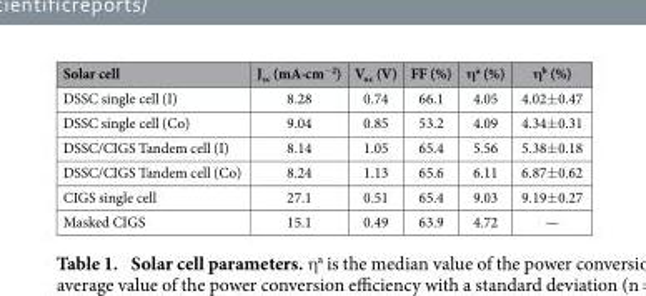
<table><thead><tr><td>Solar cell</td><td>J<sub>sc</sub> (mA∙cm<sup>−2</sup>)</td><td>V<sub>oc</sub> (V)</td><td>FF (%)</td><td>η <sup>a</sup> (%)</td><td>η <sup>b</sup> (%)</td></tr></thead><tbody><tr><td>DSSC single cell (I)</td><td>8.28</td><td>0.74</td><td>66.1</td><td>4.05</td><td>4.02± 0.47</td></tr><tr><td>DSSC single cell (Co)</td><td>9.04</td><td>0.85</td><td>53.2</td><td>4.09</td><td>4.34± 0.31</td></tr><tr><td>DSSC/CIGS Tandem cell (I)</td><td>8.14</td><td>1.05</td><td>65.4</td><td>5.56</td><td>5.38± 0.18</td></tr><tr><td>DSSC/CIGS Tandem cell (Co)</td><td>8.24</td><td>1.13</td><td>65.6</td><td>6.11</td><td>6.87± 0.62</td></tr><tr><td>CIGS single cell</td><td>27.1</td><td>0.51</td><td>65.4</td><td>9.03</td><td>9.19± 0.27</td></tr><tr><td>Masked CIGS</td><td>15.1</td><td>0.49</td><td>63.9</td><td>4.72</td><td>—</td></tr></tbody></table>